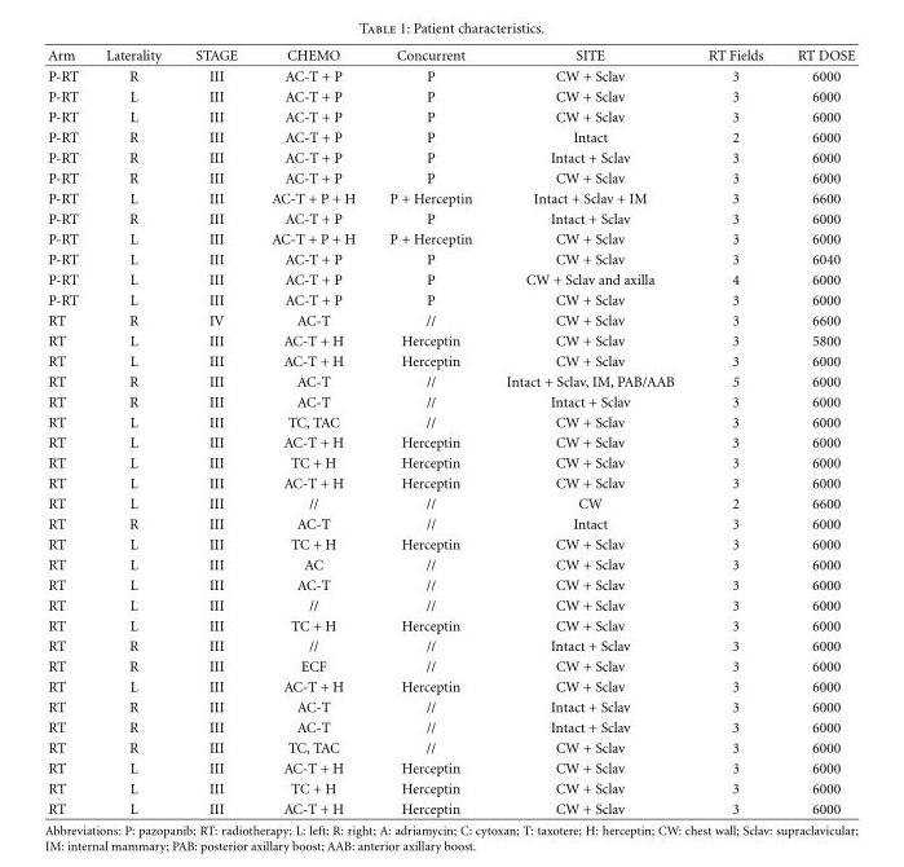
<table><thead><tr><td>Arm</td><td>Laterality</td><td>STAGE</td><td>CHEMO</td><td>Concurrent</td><td>SITE</td><td>RT Fields</td><td>RT DOSE</td></tr></thead><tbody><tr><td>P-RT</td><td>R</td><td>III</td><td>AC-T + P</td><td>P</td><td>CW + Sclav</td><td>3</td><td>6000</td></tr><tr><td>P-RT</td><td>L</td><td>III</td><td>AC-T + P</td><td>P</td><td>CW + Sclav</td><td>3</td><td>6000</td></tr><tr><td>P-RT</td><td>L</td><td>III</td><td>AC-T + P</td><td>P</td><td>CW + Sclav</td><td>3</td><td>6000</td></tr><tr><td>P-RT</td><td>R</td><td>III</td><td>AC-T + P</td><td>P</td><td>Intact</td><td>2</td><td>6000</td></tr><tr><td>P-RT</td><td>R</td><td>III</td><td>AC-T + P</td><td>P</td><td>Intact + Sclav</td><td>3</td><td>6000</td></tr><tr><td>P-RT</td><td>R</td><td>III</td><td>AC-T + P</td><td>P</td><td>CW + Sclav</td><td>3</td><td>6000</td></tr><tr><td>P-RT</td><td>L</td><td>III</td><td>AC-T + P + H</td><td>P + Herceptin</td><td>Intact + Sclav + IM</td><td>3</td><td>6600</td></tr><tr><td>P-RT</td><td>R</td><td>III</td><td>AC-T + P</td><td>P</td><td>Intact + Sclav</td><td>3</td><td>6000</td></tr><tr><td>P-RT</td><td>L</td><td>III</td><td>AC-T + P + H</td><td>P + Herceptin</td><td>CW + Sclav</td><td>3</td><td>6000</td></tr><tr><td>P-RT</td><td>L</td><td>III</td><td>AC-T + P</td><td>P</td><td>CW + Sclav</td><td>3</td><td>6040</td></tr><tr><td>P-RT</td><td>L</td><td>III</td><td>AC-T + P</td><td>P</td><td>CW + Sclav and axilla</td><td>4</td><td>6000</td></tr><tr><td>P-RT</td><td>L</td><td>III</td><td>AC-T + P</td><td>P</td><td>CW + Sclav</td><td>3</td><td>6000</td></tr><tr><td>RT</td><td>R</td><td>IV</td><td>AC-T</td><td>//</td><td>CW + Sclav</td><td>3</td><td>6600</td></tr><tr><td>RT</td><td>L</td><td>III</td><td>AC-T + H</td><td>Herceptin</td><td>CW + Sclav</td><td>3</td><td>5800</td></tr><tr><td>RT</td><td>L</td><td>III</td><td>AC-T + H</td><td>Herceptin</td><td>CW + Sclav</td><td>3</td><td>6000</td></tr><tr><td>RT</td><td>R</td><td>III</td><td>AC-T</td><td>//</td><td>Intact + Sclav, IM, PAB/AAB</td><td>5</td><td>6000</td></tr><tr><td>RT</td><td>R</td><td>III</td><td>AC-T</td><td>//</td><td>Intact + Sclav</td><td>3</td><td>6000</td></tr><tr><td>RT</td><td>L</td><td>III</td><td>TC, TAC</td><td>//</td><td>CW + Sclav</td><td>3</td><td>6000</td></tr><tr><td>RT</td><td>L</td><td>III</td><td>AC-T + H</td><td>Herceptin</td><td>CW + Sclav</td><td>3</td><td>6000</td></tr><tr><td>RT</td><td>L</td><td>III</td><td>TC + H</td><td>Herceptin</td><td>CW + Sclav</td><td>3</td><td>6000</td></tr><tr><td>RT</td><td>L</td><td>III</td><td>AC-T + H</td><td>Herceptin</td><td>CW + Sclav</td><td>3</td><td>6000</td></tr><tr><td>RT</td><td>L</td><td>III</td><td>//</td><td>//</td><td>CW</td><td>2</td><td>6600</td></tr><tr><td>RT</td><td>R</td><td>III</td><td>AC-T</td><td>//</td><td>Intact</td><td>3</td><td>6000</td></tr><tr><td>RT</td><td>L</td><td>III</td><td>TC + H</td><td>Herceptin</td><td>CW + Sclav</td><td>3</td><td>6000</td></tr><tr><td>RT</td><td>L</td><td>III</td><td>AC</td><td>//</td><td>CW + Sclav</td><td>3</td><td>6000</td></tr><tr><td>RT</td><td>L</td><td>III</td><td>AC-T</td><td>//</td><td>CW + Sclav</td><td>3</td><td>6000</td></tr><tr><td>RT</td><td>L</td><td>III</td><td>//</td><td>//</td><td>CW + Sclav</td><td>3</td><td>6000</td></tr><tr><td>RT</td><td>L</td><td>III</td><td>TC + H</td><td>Herceptin</td><td>CW + Sclav</td><td>3</td><td>6000</td></tr><tr><td>RT</td><td>R</td><td>III</td><td>//</td><td>//</td><td>Intact + Sclav</td><td>3</td><td>6000</td></tr><tr><td>RT</td><td>R</td><td>III</td><td>ECF</td><td>//</td><td>CW + Sclav</td><td>3</td><td>6000</td></tr><tr><td>RT</td><td>L</td><td>III</td><td>AC-T + H</td><td>Herceptin</td><td>CW + Sclav</td><td>3</td><td>6000</td></tr><tr><td>RT</td><td>R</td><td>III</td><td>AC-T</td><td>//</td><td>Intact + Sclav</td><td>3</td><td>6000</td></tr><tr><td>RT</td><td>R</td><td>III</td><td>AC-T</td><td>//</td><td>Intact + Sclav</td><td>3</td><td>6000</td></tr><tr><td>RT</td><td>R</td><td>III</td><td>TC, TAC</td><td>//</td><td>CW + Sclav</td><td>3</td><td>6000</td></tr><tr><td>RT</td><td>L</td><td>III</td><td>AC-T + H</td><td>Herceptin</td><td>CW + Sclav</td><td>3</td><td>6000</td></tr><tr><td>RT</td><td>L</td><td>III</td><td>TC + H</td><td>Herceptin</td><td>CW + Sclav</td><td>3</td><td>6000</td></tr><tr><td>RT</td><td>L</td><td>III</td><td>AC-T + H</td><td>Herceptin</td><td>CW + Sclav</td><td>3</td><td>6000</td></tr></tbody></table>